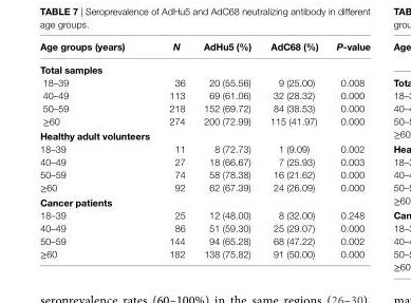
<table><thead><tr><td>age groups (years)</td><td>N</td><td>adhu5 (%)</td><td>adc68 (%)</td><td>P-value</td></tr></thead><tbody><tr><td colspan="5">Total samples</td></tr><tr><td>18–39</td><td>36</td><td>20 (55.56)</td><td>9 (25.00)</td><td>0.008</td></tr><tr><td>40–49</td><td>113</td><td>69 (61.06)</td><td>32 (28.32)</td><td>0.000</td></tr><tr><td>50–59</td><td>218</td><td>152 (69.72)</td><td>84 (38.53)</td><td>0.000</td></tr><tr><td>≥60</td><td>274</td><td>200 (72.99)</td><td>115 (41.97)</td><td>0.000</td></tr><tr><td colspan="5">healthy adult volunteers</td></tr><tr><td>18–39</td><td>11</td><td>8 (72.73)</td><td>1 (9.09)</td><td>0.002</td></tr><tr><td>40–49</td><td>27</td><td>18 (66.67)</td><td>7 (25.93)</td><td>0.003</td></tr><tr><td>50–59</td><td>74</td><td>58 (78.38)</td><td>16 (21.62)</td><td>0.000</td></tr><tr><td>≥60</td><td>92</td><td>62 (67.39)</td><td>24 (26.09)</td><td>0.000</td></tr><tr><td colspan="5">cancer patients</td></tr><tr><td>18–39</td><td>25</td><td>12 (48.00)</td><td>8 (32.00)</td><td>0.248</td></tr><tr><td>40–49</td><td>86</td><td>51 (59.30)</td><td>25 (29.07)</td><td>0.000</td></tr><tr><td>50–59</td><td>144</td><td>94 (65.28)</td><td>68 (47.22)</td><td>0.002</td></tr><tr><td>≥60</td><td>182</td><td>138 (75.82)</td><td>91 (50.00)</td><td>0.000</td></tr></tbody></table>